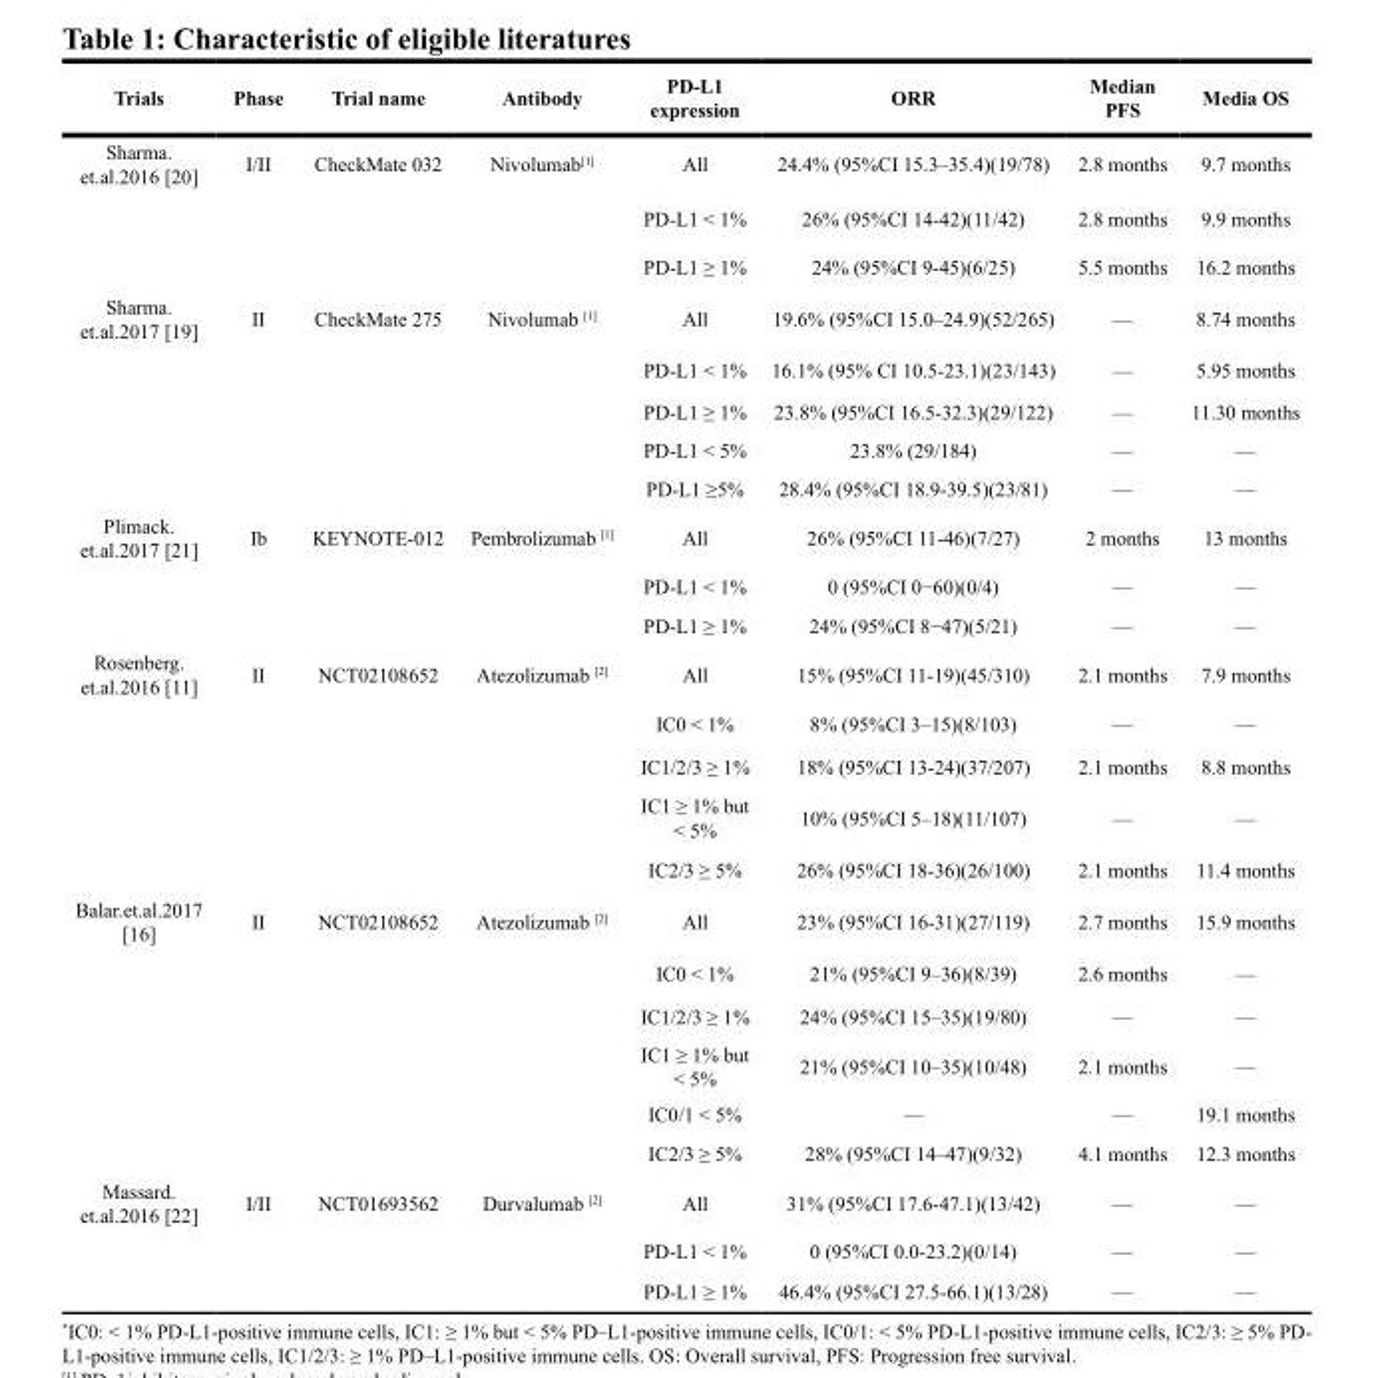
<table><thead><tr><td>Trials</td><td>Phase</td><td>Trial name</td><td>Antibody</td><td>PD-L1 expression</td><td>ORR</td><td>Median PFS</td><td>Media OS</td></tr></thead><tbody><tr><td rowspan="3">Sharma. et.al.2016 [20]</td><td>I/II</td><td>CheckMate 032</td><td>Nivolumab<sup>[1]</sup></td><td>All</td><td>24.4% (95%CI 15.3–35.4)(19/78)</td><td>2.8 months</td><td>9.7 months</td></tr><tr><td></td><td></td><td></td><td>PD-L1 &lt; 1%</td><td>26% (95%CI 14-42)(11/42)</td><td>2.8 months</td><td>9.9 months</td></tr><tr><td></td><td></td><td></td><td>PD-L1 ≥ 1%</td><td>24% (95%CI 9-45)(6/25)</td><td>5.5 months</td><td>16.2 months</td></tr><tr><td rowspan="5">Sharma. et.al.2017 [19]</td><td>II</td><td>CheckMate 275</td><td>Nivolumab <sup>[1]</sup></td><td>All</td><td>19.6% (95%CI 15.0–24.9)(52/265)</td><td>—</td><td>8.74 months</td></tr><tr><td></td><td></td><td></td><td>PD-L1 &lt; 1%</td><td>16.1% (95% CI 10.5-23.1)(23/143)</td><td>—</td><td>5.95 months</td></tr><tr><td></td><td></td><td></td><td>PD-L1 ≥ 1%</td><td>23.8% (95%CI 16.5-32.3)(29/122)</td><td>—</td><td>11.30 months</td></tr><tr><td></td><td></td><td></td><td>PD-L1 &lt; 5%</td><td>23.8% (29/184)</td><td>—</td><td>—</td></tr><tr><td></td><td></td><td></td><td>PD-L1 ≥5%</td><td>28.4% (95%CI 18.9-39.5)(23/81)</td><td>—</td><td>—</td></tr><tr><td rowspan="3">Plimack. et.al.2017 [21]</td><td>Ib</td><td>KEYNOTE-012</td><td>Pembrolizumab <sup>[1]</sup></td><td>All</td><td>26% (95%CI 11-46)(7/27)</td><td>2 months</td><td>13 months</td></tr><tr><td></td><td></td><td></td><td>PD-L1 &lt; 1%</td><td>0 (95%CI 0−60)(0/4)</td><td>—</td><td>—</td></tr><tr><td></td><td></td><td></td><td>PD-L1 ≥ 1%</td><td>24% (95%CI 8−47)(5/21)</td><td>—</td><td>—</td></tr><tr><td rowspan="5">Rosenberg. et.al.2016 [11]</td><td>II</td><td>NCT02108652</td><td>Atezolizumab <sup>[2]</sup></td><td>All</td><td>15% (95%CI 11-19)(45/310)</td><td>2.1 months</td><td>7.9 months</td></tr><tr><td></td><td></td><td></td><td>IC0 &lt; 1%</td><td>8% (95%CI 3–15)(8/103)</td><td>—</td><td>—</td></tr><tr><td></td><td></td><td></td><td>IC1/2/3 ≥ 1%</td><td>18% (95%CI 13-24)(37/207)</td><td>2.1 months</td><td>8.8 months</td></tr><tr><td></td><td></td><td></td><td>IC1 ≥ 1% but &lt; 5%</td><td>10% (95%CI 5–18)(11/107)</td><td>—</td><td>—</td></tr><tr><td></td><td></td><td></td><td>IC2/3 ≥ 5%</td><td>26% (95%CI 18-36)(26/100)</td><td>2.1 months</td><td>11.4 months</td></tr><tr><td rowspan="6">Balar.et.al.2017 [16]</td><td>II</td><td>NCT02108652</td><td>Atezolizumab <sup>[2]</sup></td><td>All</td><td>23% (95%CI 16-31)(27/119)</td><td>2.7 months</td><td>15.9 months</td></tr><tr><td></td><td></td><td></td><td>IC0 &lt; 1%</td><td>21% (95%CI 9–36)(8/39)</td><td>2.6 months</td><td>—</td></tr><tr><td></td><td></td><td></td><td>IC1/2/3 ≥ 1%</td><td>24% (95%CI 15–35)(19/80)</td><td>—</td><td>—</td></tr><tr><td></td><td></td><td></td><td>IC1 ≥ 1% but &lt; 5%</td><td>21% (95%CI 10–35)(10/48)</td><td>2.1 months</td><td>—</td></tr><tr><td></td><td></td><td></td><td>IC0/1 &lt; 5%</td><td>—</td><td>—</td><td>19.1 months</td></tr><tr><td></td><td></td><td></td><td>IC2/3 ≥ 5%</td><td>28% (95%CI 14–47)(9/32)</td><td>4.1 months</td><td>12.3 months</td></tr><tr><td rowspan="3">Massard. et.al.2016 [22]</td><td>I/II</td><td>NCT01693562</td><td>Durvalumab <sup>[2]</sup></td><td>All</td><td>31% (95%CI 17.6-47.1)(13/42)</td><td>—</td><td>—</td></tr><tr><td></td><td></td><td></td><td>PD-L1 &lt; 1%</td><td>0 (95%CI 0.0-23.2)(0/14)</td><td>—</td><td>—</td></tr><tr><td></td><td></td><td></td><td>PD-L1 ≥ 1%</td><td>46.4% (95%CI 27.5-66.1)(13/28)</td><td>—</td><td>—</td></tr></tbody></table>